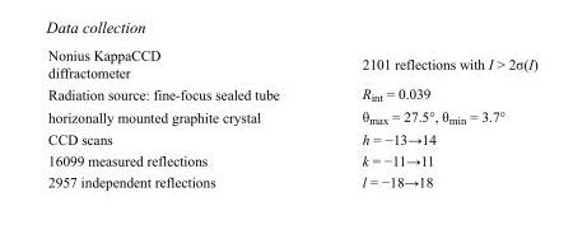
<table><tbody><tr><td>Nonius KappaCCD diffractometer</td><td>2101 reflections with I &gt; 2σ(I)</td></tr><tr><td>Radiation source: fine-focus sealed tube</td><td>R<sub>int</sub> = 0.039</td></tr><tr><td>horizonally mounted graphite crystal</td><td>θ<sub>max</sub> = 27.5°, θ<sub>min</sub> = 3.7°</td></tr><tr><td>CCD scans</td><td>h = −13→14</td></tr><tr><td>16099 measured reflections</td><td>k = −11→11</td></tr><tr><td>2957 independent reflections</td><td>l = −18→18</td></tr></tbody></table>